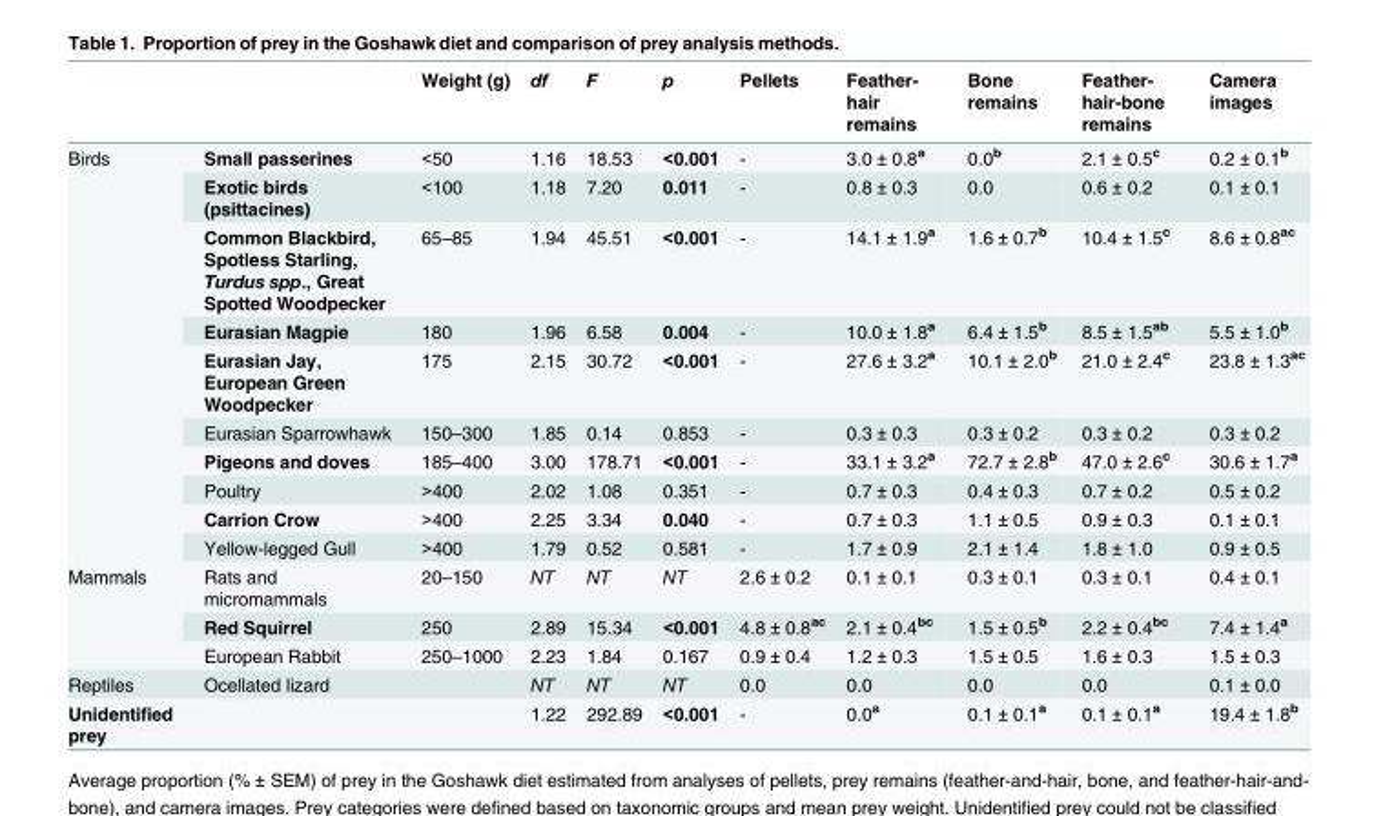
<table><thead><tr><td></td><td></td><td>Weight (g)</td><td>df</td><td>F</td><td>p</td><td>Pellets</td><td>Feather- hair remains</td><td>Bone remains</td><td>Feather- hair-bone remains</td><td>Camera images</td></tr></thead><tbody><tr><td rowspan="10">Birds</td><td>Small passerines</td><td>&lt;50</td><td>1.16</td><td>18.53</td><td>&lt;0.001</td><td>-</td><td>3.0 ± 0.8<sup>a</sup></td><td>0.0<sup>b</sup></td><td>2.1 ± 0.5<sup>c</sup></td><td>0.2 ± 0.1<sup>b</sup></td></tr><tr><td>Exotic birds (psittacines)</td><td>&lt;100</td><td>1.18</td><td>7.20</td><td>0.011</td><td>-</td><td>0.8 ± 0.3</td><td>0.0</td><td>0.6 ± 0.2</td><td>0.1 ± 0.1</td></tr><tr><td>Common Blackbird, Spotless Starling, Turdus spp., Great Spotted Woodpecker</td><td>65–85</td><td>1.94</td><td>45.51</td><td>&lt;0.001</td><td>-</td><td>14.1 ± 1.9<sup>a</sup></td><td>1.6 ± 0.7<sup>b</sup></td><td>10.4 ± 1.5<sup>c</sup></td><td>8.6 ± 0.8<sup>ac</sup></td></tr><tr><td>Eurasian Magpie</td><td>180</td><td>1.96</td><td>6.58</td><td>0.004</td><td>-</td><td>10.0 ± 1.8<sup>a</sup></td><td>6.4 ± 1.5<sup>b</sup></td><td>8.5 ± 1.5<sup>ab</sup></td><td>5.5 ± 1.0<sup>b</sup></td></tr><tr><td>Eurasian Jay, European Green Woodpecker</td><td>175</td><td>2.15</td><td>30.72</td><td>&lt;0.001</td><td>-</td><td>27.6 ± 3.2<sup>a</sup></td><td>10.1 ± 2.0<sup>b</sup></td><td>21.0 ± 2.4<sup>c</sup></td><td>23.8 ± 1.3<sup>ac</sup></td></tr><tr><td>Eurasian Sparrowhawk</td><td>150–300</td><td>1.85</td><td>0.14</td><td>0.853</td><td>-</td><td>0.3 ± 0.3</td><td>0.3 ± 0.2</td><td>0.3 ± 0.2</td><td>0.3 ± 0.2</td></tr><tr><td>Pigeons and doves</td><td>185–400</td><td>3.00</td><td>178.71</td><td>&lt;0.001</td><td>-</td><td>33.1 ± 3.2<sup>a</sup></td><td>72.7 ± 2.8<sup>b</sup></td><td>47.0 ± 2.6<sup>c</sup></td><td>30.6 ± 1.7<sup>a</sup></td></tr><tr><td>Poultry</td><td>&gt;400</td><td>2.02</td><td>1.08</td><td>0.351</td><td>-</td><td>0.7 ± 0.3</td><td>0.4 ± 0.3</td><td>0.7 ± 0.2</td><td>0.5 ± 0.2</td></tr><tr><td>Carrion Crow</td><td>&gt;400</td><td>2.25</td><td>3.34</td><td>0.040</td><td>-</td><td>0.7 ± 0.3</td><td>1.1 ± 0.5</td><td>0.9 ± 0.3</td><td>0.1 ± 0.1</td></tr><tr><td>Yellow-legged Gull</td><td>&gt;400</td><td>1.79</td><td>0.52</td><td>0.581</td><td>-</td><td>1.7 ± 0.9</td><td>2.1 ± 1.4</td><td>1.8 ± 1.0</td><td>0.9 ± 0.5</td></tr><tr><td rowspan="3">Mammals</td><td>Rats and micromammals</td><td>20–150</td><td>NT</td><td>NT</td><td>NT</td><td>2.6 ± 0.2</td><td>0.1 ± 0.1</td><td>0.3 ± 0.1</td><td>0.3 ± 0.1</td><td>0.4 ± 0.1</td></tr><tr><td>Red Squirrel</td><td>250</td><td>2.89</td><td>15.34</td><td>&lt;0.001</td><td>4.8 ± 0.8<sup>ac</sup></td><td>2.1 ± 0.4<sup>bc</sup></td><td>1.5 ± 0.5<sup>b</sup></td><td>2.2 ± 0.4<sup>bc</sup></td><td>7.4 ± 1.4<sup>a</sup></td></tr><tr><td>European Rabbit</td><td>250–1000</td><td>2.23</td><td>1.84</td><td>0.167</td><td>0.9 ± 0.4</td><td>1.2 ± 0.3</td><td>1.5 ± 0.5</td><td>1.6 ± 0.3</td><td>1.5 ± 0.3</td></tr><tr><td>Reptiles</td><td>Ocellated lizard</td><td></td><td>NT</td><td>NT</td><td>NT</td><td>0.0</td><td>0.0</td><td>0.0</td><td>0.0</td><td>0.1 ± 0.0</td></tr><tr><td>Unidentified prey</td><td></td><td></td><td>1.22</td><td>292.89</td><td>&lt;0.001</td><td>-</td><td>0.0<sup>a</sup></td><td>0.1 ± 0.1<sup>a</sup></td><td>0.1 ± 0.1<sup>a</sup></td><td>19.4 ± 1.8<sup>b</sup></td></tr></tbody></table>